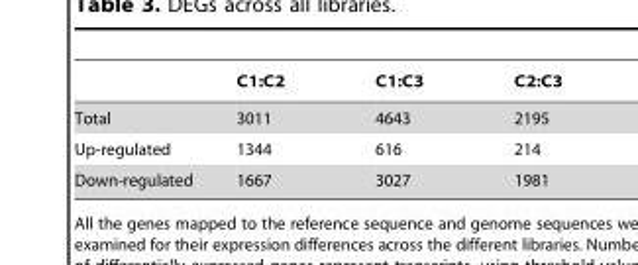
<table><thead><tr><td></td><td>C1:C2</td><td>C1:C3</td><td>C2:C3</td></tr></thead><tbody><tr><td>Total</td><td>3011</td><td>4643</td><td>2195</td></tr><tr><td>Up-regulated</td><td>1344</td><td>616</td><td>214</td></tr><tr><td>Down-regulated</td><td>1667</td><td>3027</td><td>1981</td></tr></tbody></table>